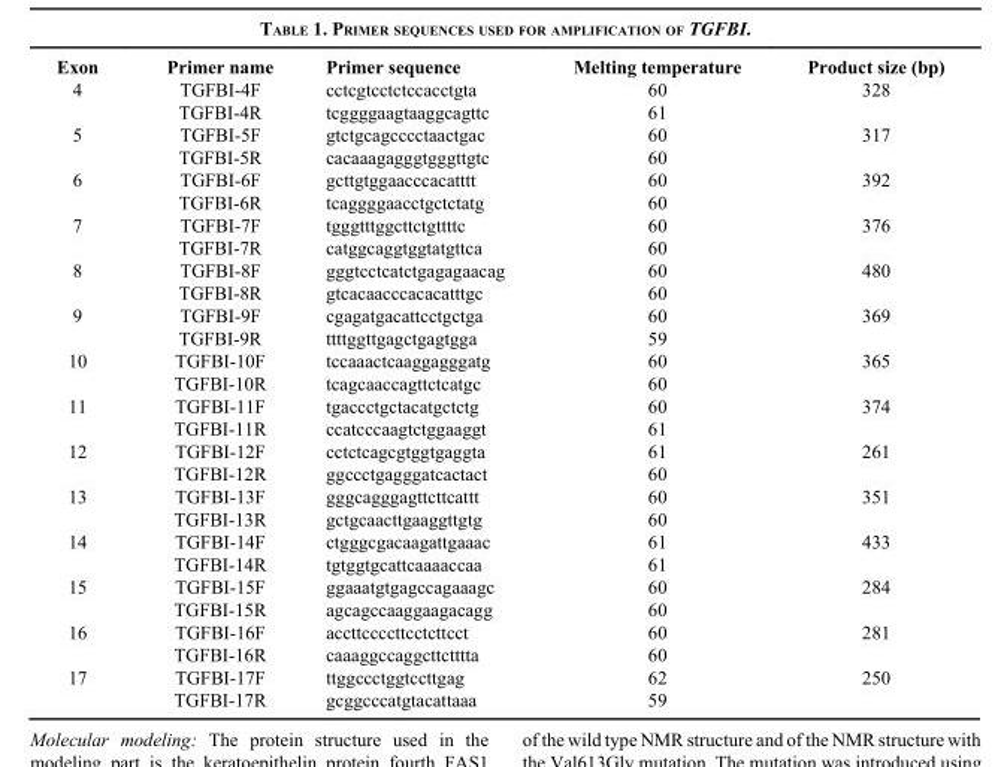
<table><thead><tr><td>Exon</td><td>Primer name</td><td>Primer sequence</td><td>Melting temperature</td><td>Product size (bp)</td></tr></thead><tbody><tr><td rowspan="2">4</td><td>TGFBI-4F</td><td>cctcgtcctctccacctgta</td><td>60</td><td>328</td></tr><tr><td>TGFBI-4R</td><td>tcggggaagtaaggcagttc</td><td>61</td><td></td></tr><tr><td rowspan="2">5</td><td>TGFBI-5F</td><td>gtctgcagcccctaactgac</td><td>60</td><td>317</td></tr><tr><td>TGFBI-5R</td><td>cacaaagagggtgggttgtc</td><td>60</td><td></td></tr><tr><td rowspan="2">6</td><td>TGFBI-6F</td><td>gcttgtggaacccacatttt</td><td>60</td><td>392</td></tr><tr><td>TGFBI-6R</td><td>tcaggggaacctgctctatg</td><td>60</td><td></td></tr><tr><td rowspan="2">7</td><td>TGFBI-7F</td><td>tgggtttggcttctgttttc</td><td>60</td><td>376</td></tr><tr><td>TGFBI-7R</td><td>catggcaggtggtatgttca</td><td>60</td><td></td></tr><tr><td rowspan="2">8</td><td>TGFBI-8F</td><td>gggtcctcatctgagagaacag</td><td>60</td><td>480</td></tr><tr><td>TGFBI-8R</td><td>gtcacaacccacacatttgc</td><td>60</td><td></td></tr><tr><td rowspan="2">9</td><td>TGFBI-9F</td><td>cgagatgacattcctgctga</td><td>60</td><td>369</td></tr><tr><td>TGFBI-9R</td><td>ttttggttgagctgagtgga</td><td>59</td><td></td></tr><tr><td rowspan="2">10</td><td>TGFBI-10F</td><td>tccaaactcaaggagggatg</td><td>60</td><td>365</td></tr><tr><td>TGFBI-10R</td><td>tcagcaaccagttctcatgc</td><td>60</td><td></td></tr><tr><td rowspan="2">11</td><td>TGFBI-11F</td><td>tgaccctgctacatgctctg</td><td>60</td><td>374</td></tr><tr><td>TGFBI-11R</td><td>ccatcccaagtctggaaggt</td><td>61</td><td></td></tr><tr><td rowspan="2">12</td><td>TGFBI-12F</td><td>cctctcagcgtggtgaggta</td><td>61</td><td>261</td></tr><tr><td>TGFBI-12R</td><td>ggccctgagggatcactact</td><td>60</td><td></td></tr><tr><td rowspan="2">13</td><td>TGFBI-13F</td><td>gggcagggagttcttcattt</td><td>60</td><td>351</td></tr><tr><td>TGFBI-13R</td><td>gctgcaacttgaaggttgtg</td><td>60</td><td></td></tr><tr><td rowspan="2">14</td><td>TGFBI-14F</td><td>ctgggcgacaagattgaaac</td><td>61</td><td>433</td></tr><tr><td>TGFBI-14R</td><td>tgtggtgcattcaaaaccaa</td><td>61</td><td></td></tr><tr><td rowspan="2">15</td><td>TGFBI-15F</td><td>ggaaatgtgagccagaaagc</td><td>60</td><td>284</td></tr><tr><td>TGFBI-15R</td><td>agcagccaaggaagacagg</td><td>60</td><td></td></tr><tr><td rowspan="2">16</td><td>TGFBI-16F</td><td>accttccccttcctcttcct</td><td>60</td><td>281</td></tr><tr><td>TGFBI-16R</td><td>caaaggccaggcttctttta</td><td>60</td><td></td></tr><tr><td rowspan="2">17</td><td>TGFBI-17F</td><td>ttggccctggtccttgag</td><td>62</td><td>250</td></tr><tr><td>TGFBI-17R</td><td>gcggcccatgtacattaaa</td><td>59</td><td></td></tr></tbody></table>